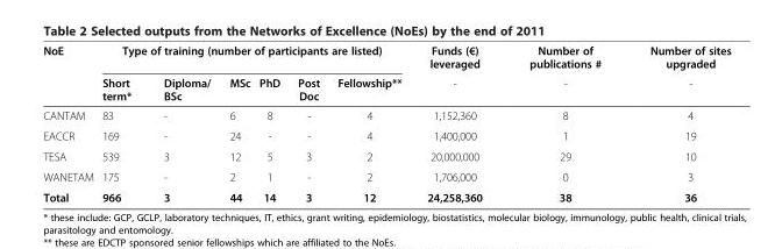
<table><thead><tr><td rowspan="2">NoE</td><td colspan="6">Type of training (number of participants are listed)</td><td rowspan="2">Funds (€) leveraged -</td><td rowspan="2">Number of publications # -</td><td rowspan="2">Number of sites upgraded -</td></tr><tr><td>Short term*</td><td>Diploma/ BSc</td><td>MSc</td><td>PhD</td><td>Post Doc</td><td>Fellowship**</td></tr></thead><tbody><tr><td>CANTAM</td><td>83</td><td>-</td><td>6</td><td>8</td><td>-</td><td>4</td><td>1,152,360</td><td>8</td><td>4</td></tr><tr><td>EACCR</td><td>169</td><td>-</td><td>24</td><td>-</td><td>-</td><td>4</td><td>1,400,000</td><td>1</td><td>19</td></tr><tr><td>TESA</td><td>539</td><td>3</td><td>12</td><td>5</td><td>3</td><td>2</td><td>20,000,000</td><td>29</td><td>10</td></tr><tr><td>WANETAM</td><td>175</td><td>-</td><td>2</td><td>1</td><td>-</td><td>2</td><td>1,706,000</td><td>0</td><td>3</td></tr><tr><td>Total</td><td>966</td><td>3</td><td>44</td><td>14</td><td>3</td><td>12</td><td>24,258,360</td><td>38</td><td>36</td></tr></tbody></table>